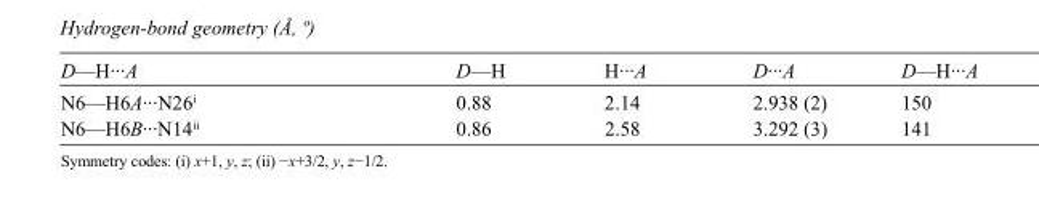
<table><tbody><tr><td>D—H···A</td><td>D—H</td><td>H···A</td><td>D···A</td><td>D—H···A</td></tr><tr><td>N6—H6A···N26<sup>i</sup></td><td>0.88</td><td>2.14</td><td>2.938 (2)</td><td>150</td></tr><tr><td>N6—H6B···N14<sup>ii</sup></td><td>0.86</td><td>2.58</td><td>3.292 (3)</td><td>141</td></tr></tbody></table>